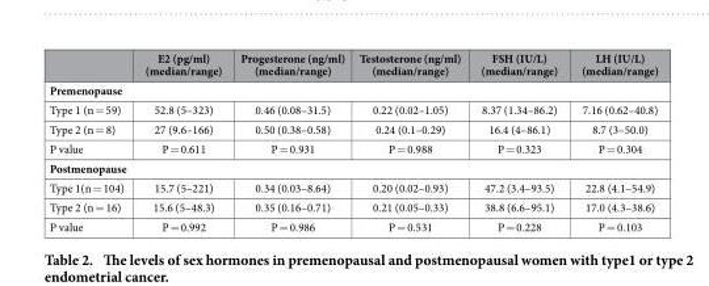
<table><thead><tr><td></td><td>E2 (pg/ml) (median/range)</td><td>Progesterone (ng/ml) (median/range)</td><td>Testosterone (ng/ml) (median/range)</td><td>FSH (IU/L) (median/range)</td><td>LH (IU/L) (median/range)</td></tr></thead><tbody><tr><td colspan="6">Premenopause</td></tr><tr><td>Type 1 (n = 59)</td><td>52.8 (5–323)</td><td>0.46 (0.08–31.5)</td><td>0.22 (0.02–1.05)</td><td>8.37 (1.34–86.2)</td><td>7.16 (0.62–40.8)</td></tr><tr><td>Type 2 (n = 8)</td><td>27 (9.6–166)</td><td>0.50 (0.38–0.58)</td><td>0.24 (0.1–0.29)</td><td>16.4 (4–86.1)</td><td>8.7 (3–50.0)</td></tr><tr><td>P value</td><td>P = 0.611</td><td>P = 0.931</td><td>P = 0.988</td><td>P = 0.323</td><td>P = 0.304</td></tr><tr><td colspan="6">Postmenopause</td></tr><tr><td>Type 1(n = 104)</td><td>15.7 (5–221)</td><td>0.34 (0.03–8.64)</td><td>0.20 (0.02–0.93)</td><td>47.2 (3.4–93.5)</td><td>22.8 (4.1–54.9)</td></tr><tr><td>Type 2 (n = 16)</td><td>15.6 (5–48.3)</td><td>0.35 (0.16–0.71)</td><td>0.21 (0.05–0.33)</td><td>38.8 (6.6–95.1)</td><td>17.0 (4.3–38.6)</td></tr><tr><td>P value</td><td>P = 0.992</td><td>P = 0.986</td><td>P = 0.531</td><td>P = 0.228</td><td>P = 0.103</td></tr></tbody></table>